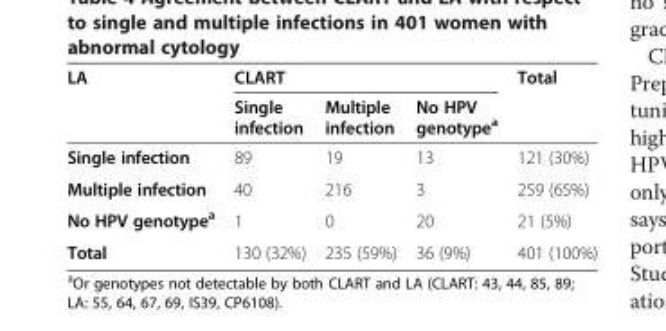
<table><thead><tr><td rowspan="2">LA</td><td colspan="3">CLART</td><td rowspan="2">Total</td></tr><tr><td>Single infection</td><td>Multiple infection</td><td>No HPV genotype<sup>a</sup></td></tr></thead><tbody><tr><td>Single infection</td><td>89</td><td>19</td><td>13</td><td>121 (30%)</td></tr><tr><td>Multiple infection</td><td>40</td><td>216</td><td>3</td><td>259 (65%)</td></tr><tr><td>No HPV genotype<sup>a</sup></td><td>1</td><td>0</td><td>20</td><td>21 (5%)</td></tr><tr><td>Total</td><td>130 (32%)</td><td>235 (59%)</td><td>36 (9%)</td><td>401 (100%)</td></tr></tbody></table>